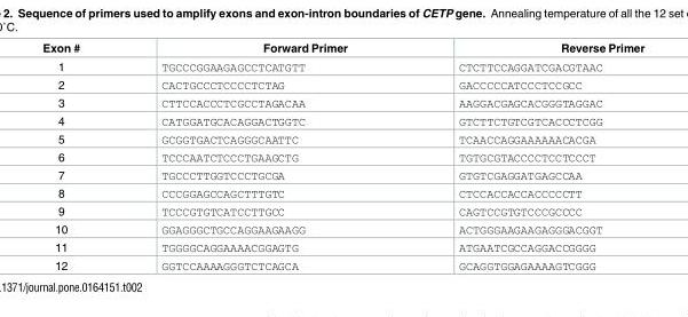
<table><thead><tr><td>Exon #</td><td>Forward Primer</td><td>Reverse Primer</td></tr></thead><tbody><tr><td>1</td><td>TGCCCGGAAGAGCCTCATGTT</td><td>CTCTTCCAGGATCGACGTAAC</td></tr><tr><td>2</td><td>CACTGCCCTCCCCTCTAG</td><td>GACCCCCATCCCTCCGCC</td></tr><tr><td>3</td><td>CTTCCACCCTCGCCTAGACAA</td><td>AAGGACGAGCACGGGTAGGAC</td></tr><tr><td>4</td><td>CATGGATGCACAGGACTGGTC</td><td>GTCTTCTGTCGTCACCCTCGG</td></tr><tr><td>5</td><td>GCGGTGACTCAGGGCAATTC</td><td>TCAACCAGGAAAAAACACGA</td></tr><tr><td>6</td><td>TCCCAATCTCCCTGAAGCTG</td><td>TGTGCGTACCCCTCCTCCCT</td></tr><tr><td>7</td><td>TGCCCTTGGTCCCTGCGA</td><td>GTGTCGAGGATGAGCCAA</td></tr><tr><td>8</td><td>CCCGGAGCCAGCTTTGTC</td><td>CTCCACCACCACCCCCTT</td></tr><tr><td>9</td><td>TCCCGTGTCATCCTTGCC</td><td>CAGTCCGTGTCCCGCCCC</td></tr><tr><td>10</td><td>GGAGGGCTGCCAGGAAGAAGG</td><td>ACTGGGAAGAAGAGGGACGGT</td></tr><tr><td>11</td><td>TGGGGCAGGAAAACGGAGTG</td><td>ATGAATCGCCAGGACCGGGG</td></tr><tr><td>12</td><td>GGTCCAAAAGGGTCTCAGCA</td><td>GCAGGTGGAGAAAAGTCGGG</td></tr></tbody></table>